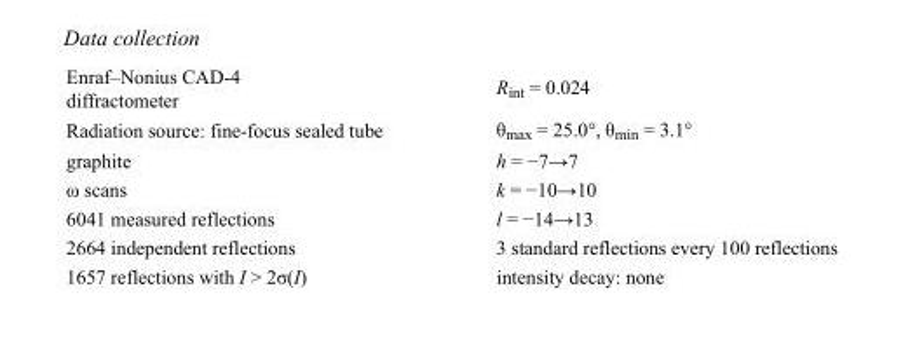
<table><tbody><tr><td>Enraf–Nonius CAD-4 diffractometer</td><td>R<sub>int</sub> = 0.024</td></tr><tr><td>Radiation source: fine-focus sealed tube</td><td>θ<sub>max</sub> = 25.0°, θ<sub>min</sub> = 3.1°</td></tr><tr><td>graphite</td><td>h = −7→7</td></tr><tr><td>ω scans</td><td>k = −10→10</td></tr><tr><td>6041 measured reflections</td><td>l = −14→13</td></tr><tr><td>2664 independent reflections</td><td>3 standard reflections every 100 reflections</td></tr><tr><td>1657 reflections with I &gt; 2σ(I)</td><td>intensity decay: none</td></tr></tbody></table>